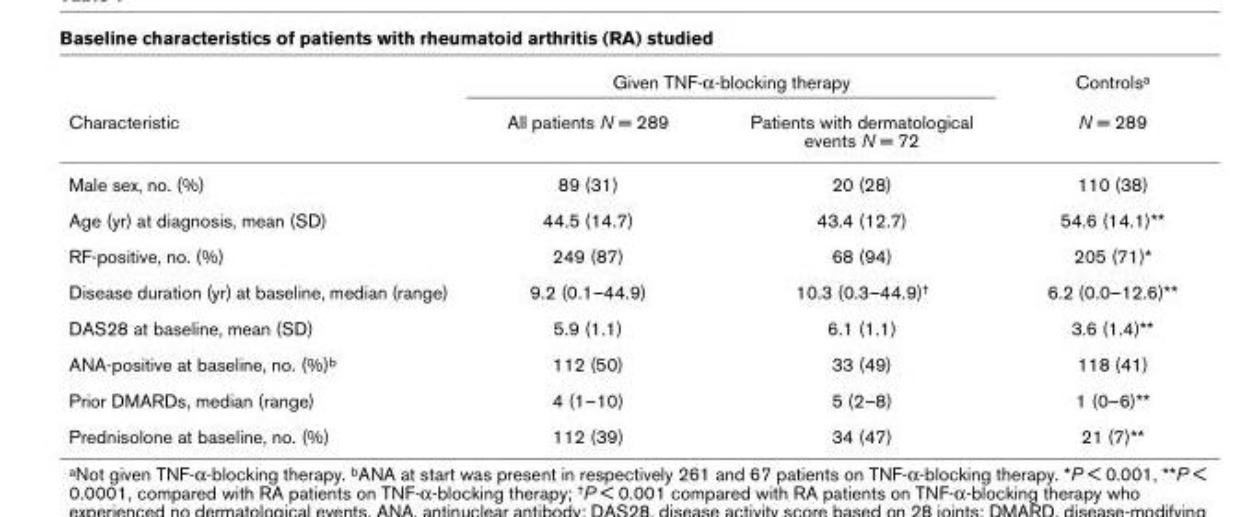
<table><thead><tr><td rowspan="2">Characteristic</td><td colspan="2">Given TNF-α-blocking therapy</td><td rowspan="2">Controlsa N = 289</td></tr><tr><td>All patients N = 289</td><td>Patients with dermatological events N = 72</td></tr></thead><tbody><tr><td>Male sex, no. (%)</td><td>89 (31)</td><td>20 (28)</td><td>110 (38)</td></tr><tr><td>Age (yr) at diagnosis, mean (SD)</td><td>44.5 (14.7)</td><td>43.4 (12.7)</td><td>54.6 (14.1)**</td></tr><tr><td>RF-positive, no. (%)</td><td>249 (87)</td><td>68 (94)</td><td>205 (71)*</td></tr><tr><td>Disease duration (yr) at baseline, median (range)</td><td>9.2 (0.1–44.9)</td><td>10.3 (0.3–44.9)†</td><td>6.2 (0.0–12.6)**</td></tr><tr><td>DAS28 at baseline, mean (SD)</td><td>5.9 (1.1)</td><td>6.1 (1.1)</td><td>3.6 (1.4)**</td></tr><tr><td>ANA-positive at baseline, no. (%)b</td><td>112 (50)</td><td>33 (49)</td><td>118 (41)</td></tr><tr><td>Prior DMARDs, median (range)</td><td>4 (1–10)</td><td>5 (2–8)</td><td>1 (0–6)**</td></tr><tr><td>Prednisolone at baseline, no. (%)</td><td>112 (39)</td><td>34 (47)</td><td>21 (7)**</td></tr></tbody></table>